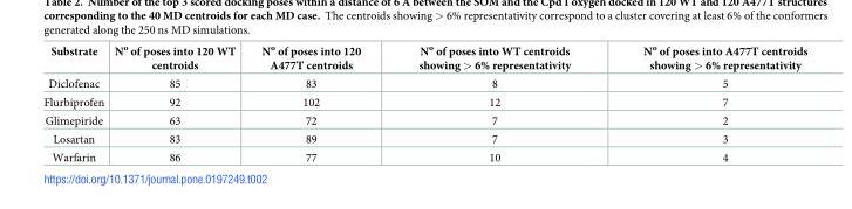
<table><thead><tr><td>Substrate</td><td>N<sup>o</sup> of poses into 120 WT centroids</td><td>N<sup>o</sup> of poses into 120 A477T centroids</td><td>N<sup>o</sup> of poses into WT centroids showing &gt; 6% representativity</td><td>N<sup>o</sup> of poses into A477T centroids showing &gt; 6% representativity</td></tr></thead><tbody><tr><td>Diclofenac</td><td>85</td><td>83</td><td>8</td><td>5</td></tr><tr><td>Flurbiprofen</td><td>92</td><td>102</td><td>12</td><td>7</td></tr><tr><td>Glimepiride</td><td>63</td><td>72</td><td>7</td><td>2</td></tr><tr><td>Losartan</td><td>83</td><td>89</td><td>7</td><td>3</td></tr><tr><td>Warfarin</td><td>86</td><td>77</td><td>10</td><td>4</td></tr></tbody></table>